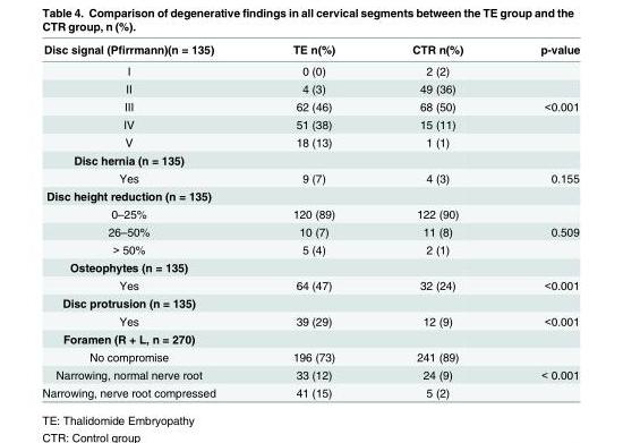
<table><thead><tr><td>Disc signal (Pfirrmann)(n = 135)</td><td>TE n(%)</td><td>CTR n(%)</td><td>p-value</td></tr></thead><tbody><tr><td>I</td><td>0 (0)</td><td>2 (2)</td><td></td></tr><tr><td>II</td><td>4 (3)</td><td>49 (36)</td><td></td></tr><tr><td>III</td><td>62 (46)</td><td>68 (50)</td><td>&lt;0.001</td></tr><tr><td>IV</td><td>51 (38)</td><td>15 (11)</td><td></td></tr><tr><td>V</td><td>18 (13)</td><td>1 (1)</td><td></td></tr><tr><td colspan="4">Disc hernia (n = 135)</td></tr><tr><td>Yes</td><td>9 (7)</td><td>4 (3)</td><td>0.155</td></tr><tr><td colspan="4">Disc height reduction (n = 135)</td></tr><tr><td>0–25%</td><td>120 (89)</td><td>122 (90)</td><td></td></tr><tr><td>26–50%</td><td>10 (7)</td><td>11 (8)</td><td>0.509</td></tr><tr><td>&gt; 50%</td><td>5 (4)</td><td>2 (1)</td><td></td></tr><tr><td colspan="4">Osteophytes (n = 135)</td></tr><tr><td>Yes</td><td>64 (47)</td><td>32 (24)</td><td>&lt;0.001</td></tr><tr><td colspan="4">Disc protrusion (n = 135)</td></tr><tr><td>Yes</td><td>39 (29)</td><td>12 (9)</td><td>&lt;0.001</td></tr><tr><td colspan="4">Foramen (R + L, n = 270)</td></tr><tr><td>No compromise</td><td>196 (73)</td><td>241 (89)</td><td></td></tr><tr><td>Narrowing, normal nerve root</td><td>33 (12)</td><td>24 (9)</td><td>&lt; 0.001</td></tr><tr><td>Narrowing, nerve root compressed</td><td>41 (15)</td><td>5 (2)</td><td></td></tr></tbody></table>